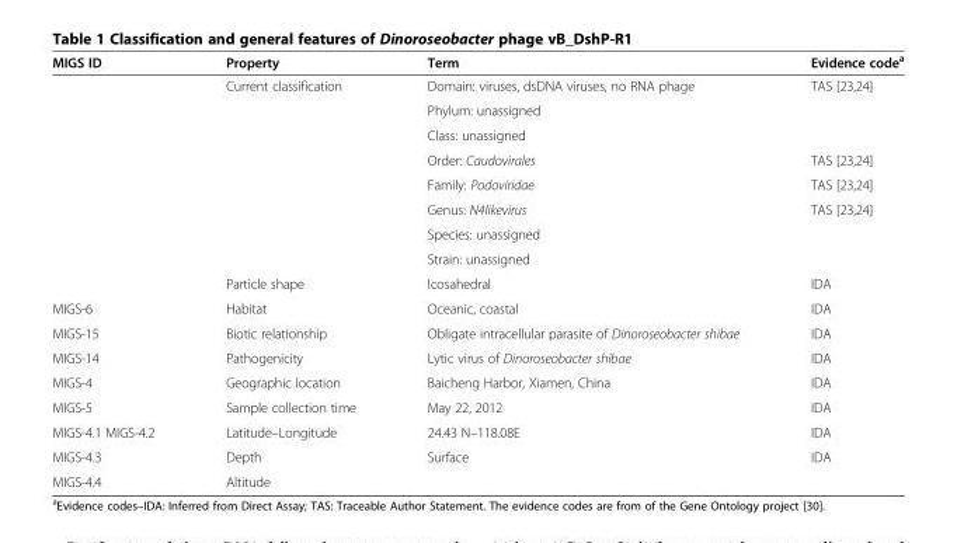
<table><thead><tr><td>MIGS ID</td><td>Property</td><td>Term</td><td>Evidence code<sup>a</sup></td></tr></thead><tbody><tr><td rowspan="8"></td><td rowspan="8">Current classification</td><td>Domain: viruses, dsDNA viruses, no RNA phage</td><td>TAS [23,24]</td></tr><tr><td>Phylum: unassigned</td><td></td></tr><tr><td>Class: unassigned</td><td></td></tr><tr><td>Order: Caudovirales</td><td>TAS [23,24]</td></tr><tr><td>Family: Podoviridae</td><td>TAS [23,24]</td></tr><tr><td>Genus: N4likevirus</td><td>TAS [23,24]</td></tr><tr><td>Species: unassigned</td><td></td></tr><tr><td>Strain: unassigned</td><td></td></tr><tr><td></td><td>Particle shape</td><td>Icosahedral</td><td>IDA</td></tr><tr><td>MIGS-6</td><td>Habitat</td><td>Oceanic, coastal</td><td>IDA</td></tr><tr><td>MIGS-15</td><td>Biotic relationship</td><td>Obligate intracellular parasite of Dinoroseobacter shibae</td><td>IDA</td></tr><tr><td>MIGS-14</td><td>Pathogenicity</td><td>Lytic virus of Dinoroseobacter shibae</td><td>IDA</td></tr><tr><td>MIGS-4</td><td>Geographic location</td><td>Baicheng Harbor, Xiamen, China</td><td>IDA</td></tr><tr><td>MIGS-5</td><td>Sample collection time</td><td>May 22, 2012</td><td>IDA</td></tr><tr><td>MIGS-4.1 MIGS-4.2</td><td>Latitude–Longitude</td><td>24.43 N–118.08E</td><td>IDA</td></tr><tr><td>MIGS-4.3</td><td>Depth</td><td>Surface</td><td>IDA</td></tr><tr><td>MIGS-4.4</td><td>Altitude</td><td></td><td></td></tr></tbody></table>